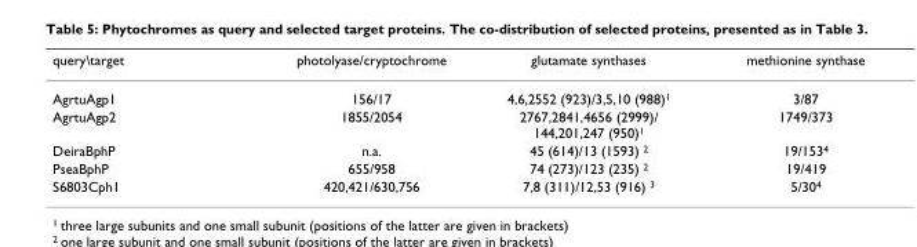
<table><thead><tr><td>query\target</td><td>photolyase/cryptochrome</td><td>glutamate synthases</td><td>methionine synthase</td></tr></thead><tbody><tr><td>AgrtuAgp1</td><td>156/17</td><td>4,6,2552 (923)/3,5,10 (988)1</td><td>3/87</td></tr><tr><td>AgrtuAgp2</td><td>1855/2054</td><td>2767,2841,4656 (2999)/ 144,201,247 (950)1</td><td>1749/373</td></tr><tr><td>DeiraBphP</td><td>n.a.</td><td>45 (614)/13 (1593) 2</td><td>19/1534</td></tr><tr><td>PseaBphP</td><td>655/958</td><td>74 (273)/123 (235) 2</td><td>19/419</td></tr><tr><td>S6803Cph1</td><td>420,421/630,756</td><td>7,8 (311)/12,53 (916) 3</td><td>5/304</td></tr></tbody></table>